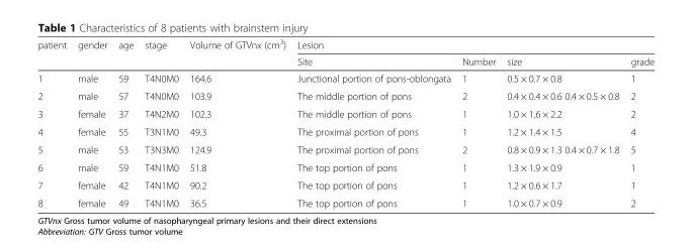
<table><thead><tr><td rowspan="2">patient</td><td rowspan="2">gender</td><td rowspan="2">age</td><td rowspan="2">stage</td><td rowspan="2">Volume of GTVnx (cm<sup>3</sup>)</td><td colspan="4">Lesion</td></tr><tr><td>Site</td><td>Number</td><td>size</td><td>grade</td></tr></thead><tbody><tr><td>1</td><td>male</td><td>59</td><td>T4N0M0</td><td>164.6</td><td>Junctional portion of pons-oblongata</td><td>1</td><td>0.5 × 0.7 × 0.8</td><td>1</td></tr><tr><td>2</td><td>male</td><td>57</td><td>T4N0M0</td><td>103.9</td><td>The middle portion of pons</td><td>2</td><td>0.4 × 0.4 × 0.6 0.4 × 0.5 × 0.8</td><td>2</td></tr><tr><td>3</td><td>female</td><td>37</td><td>T4N2M0</td><td>102.3</td><td>The middle portion of pons</td><td>1</td><td>1.0 × 1.6 × 2.2</td><td>2</td></tr><tr><td>4</td><td>female</td><td>55</td><td>T3N1M0</td><td>49.3</td><td>The proximal portion of pons</td><td>1</td><td>1.2 × 1.4 × 1.5</td><td>4</td></tr><tr><td>5</td><td>male</td><td>53</td><td>T3N3M0</td><td>124.9</td><td>The proximal portion of pons</td><td>2</td><td>0.8 × 0.9 × 1.3 0.4 × 0.7 × 1.8</td><td>5</td></tr><tr><td>6</td><td>male</td><td>59</td><td>T4N1M0</td><td>51.8</td><td>The top portion of pons</td><td>1</td><td>1.3 × 1.9 × 0.9</td><td>1</td></tr><tr><td>7</td><td>female</td><td>42</td><td>T4N1M0</td><td>90.2</td><td>The top portion of pons</td><td>1</td><td>1.2 × 0.6 × 1.7</td><td>1</td></tr><tr><td>8</td><td>female</td><td>49</td><td>T4N1M0</td><td>36.5</td><td>The top portion of pons</td><td>1</td><td>1.0 × 0.7 × 0.9</td><td>2</td></tr></tbody></table>